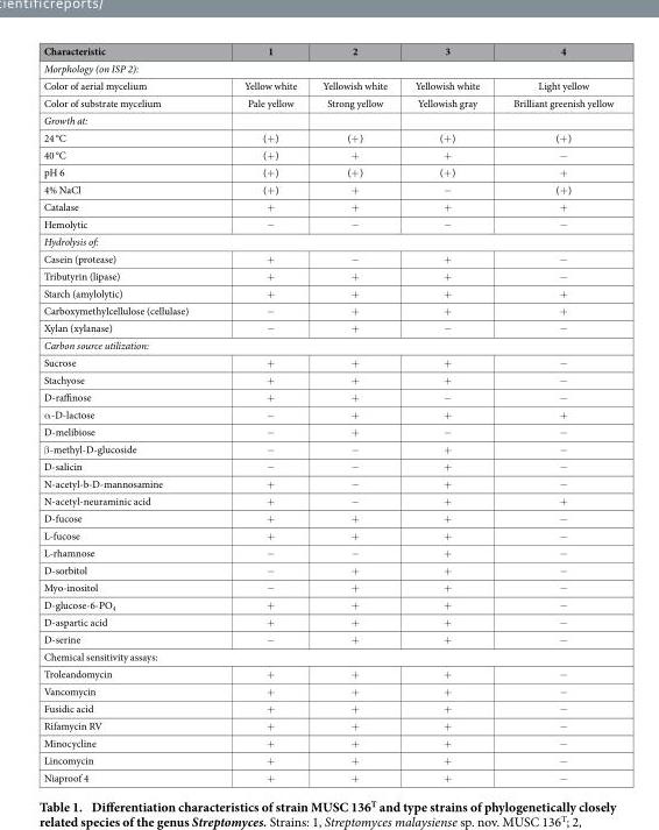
<table><thead><tr><td>Characteristic</td><td>1</td><td>2</td><td>3</td><td>4</td></tr></thead><tbody><tr><td colspan="5">Morphology (on ISP 2):</td></tr><tr><td>Color of aerial mycelium</td><td>Yellow white</td><td>Yellowish white</td><td>Yellowish white</td><td>Light yellow</td></tr><tr><td>Color of substrate mycelium</td><td>Pale yellow</td><td>Strong yellow</td><td>Yellowish gray</td><td>Brilliant greenish yellow</td></tr><tr><td colspan="5">Growth at:</td></tr><tr><td>24 °C</td><td>(+ )</td><td>(+ )</td><td>(+ )</td><td>(+ )</td></tr><tr><td>40 °C</td><td>(+ )</td><td>+</td><td>+</td><td>−</td></tr><tr><td>pH 6</td><td>(+ )</td><td>(+ )</td><td>(+ )</td><td>+</td></tr><tr><td>4% NaCl</td><td>(+ )</td><td>+</td><td>−</td><td>(+ )</td></tr><tr><td>Catalase</td><td>+</td><td>+</td><td>+</td><td>+</td></tr><tr><td>Hemolytic</td><td>−</td><td>−</td><td>−</td><td>−</td></tr><tr><td colspan="5">Hydrolysis of:</td></tr><tr><td>Casein (protease)</td><td>+</td><td>−</td><td>+</td><td>−</td></tr><tr><td>Tributyrin (lipase)</td><td>+</td><td>+</td><td>+</td><td>−</td></tr><tr><td>Starch (amylolytic)</td><td>+</td><td>+</td><td>+</td><td>+</td></tr><tr><td>Carboxymethylcellulose (cellulase)</td><td>−</td><td>+</td><td>+</td><td>+</td></tr><tr><td>Xylan (xylanase)</td><td>−</td><td>+</td><td>−</td><td>−</td></tr><tr><td colspan="5">Carbon source utilization:</td></tr><tr><td>Sucrose</td><td>+</td><td>+</td><td>+</td><td>−</td></tr><tr><td>Stachyose</td><td>+</td><td>+</td><td>+</td><td>−</td></tr><tr><td>D-raffinose</td><td>+</td><td>+</td><td>−</td><td>−</td></tr><tr><td>α -D-lactose</td><td>−</td><td>+</td><td>+</td><td>+</td></tr><tr><td>D-melibiose</td><td>−</td><td>+</td><td>−</td><td>−</td></tr><tr><td>β -methyl-D-glucoside</td><td>−</td><td>−</td><td>+</td><td>−</td></tr><tr><td>D-salicin</td><td>−</td><td>−</td><td>+</td><td>−</td></tr><tr><td>N-acetyl-b-D-mannosamine</td><td>+</td><td>−</td><td>+</td><td>−</td></tr><tr><td>N-acetyl-neuraminic acid</td><td>+</td><td>−</td><td>+</td><td>+</td></tr><tr><td>D-fucose</td><td>+</td><td>+</td><td>+</td><td>−</td></tr><tr><td>L-fucose</td><td>+</td><td>+</td><td>+</td><td>−</td></tr><tr><td>L-rhamnose</td><td>−</td><td>−</td><td>+</td><td>−</td></tr><tr><td>D-sorbitol</td><td>−</td><td>+</td><td>+</td><td>−</td></tr><tr><td>Myo-inositol</td><td>−</td><td>+</td><td>+</td><td>−</td></tr><tr><td>D-glucose-6-PO<sub>4</sub></td><td>+</td><td>+</td><td>+</td><td>−</td></tr><tr><td>D-aspartic acid</td><td>+</td><td>+</td><td>+</td><td>−</td></tr><tr><td>D-serine</td><td>−</td><td>+</td><td>+</td><td>−</td></tr><tr><td colspan="5">Chemical sensitivity assays:</td></tr><tr><td>Troleandomycin</td><td>+</td><td>+</td><td>+</td><td>−</td></tr><tr><td>Vancomycin</td><td>+</td><td>+</td><td>+</td><td>−</td></tr><tr><td>Fusidic acid</td><td>+</td><td>+</td><td>+</td><td>−</td></tr><tr><td>Rifamycin RV</td><td>+</td><td>+</td><td>+</td><td>−</td></tr><tr><td>Minocycline</td><td>+</td><td>+</td><td>+</td><td>−</td></tr><tr><td>Lincomycin</td><td>+</td><td>+</td><td>+</td><td>−</td></tr><tr><td>Niaproof 4</td><td>+</td><td>+</td><td>+</td><td>−</td></tr></tbody></table>